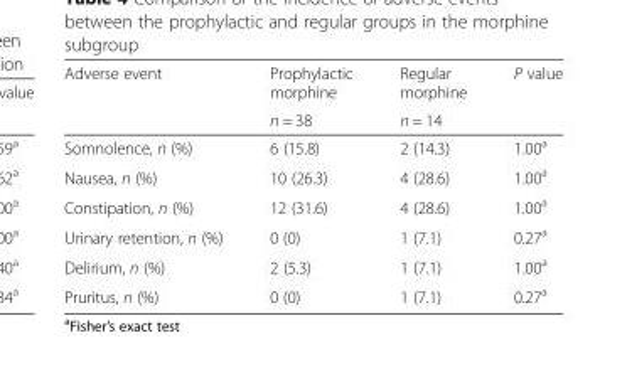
<table><thead><tr><td rowspan="2">Adverse event</td><td rowspan="2">Prophylactic morphine n = 38</td><td rowspan="2">Regular morphine n = 14</td><td rowspan="2">P value</td></tr><tr></tr></thead><tbody><tr><td>Somnolence, n (%)</td><td>6 (15.8)</td><td>2 (14.3)</td><td>1.00<sup>a</sup></td></tr><tr><td>Nausea, n (%)</td><td>10 (26.3)</td><td>4 (28.6)</td><td>1.00<sup>a</sup></td></tr><tr><td>Constipation, n (%)</td><td>12 (31.6)</td><td>4 (28.6)</td><td>1.00<sup>a</sup></td></tr><tr><td>Urinary retention, n (%)</td><td>0 (0)</td><td>1 (7.1)</td><td>0.27<sup>a</sup></td></tr><tr><td>Delirium, n (%)</td><td>2 (5.3)</td><td>1 (7.1)</td><td>1.00<sup>a</sup></td></tr><tr><td>Pruritus, n (%)</td><td>0 (0)</td><td>1 (7.1)</td><td>0.27<sup>a</sup></td></tr></tbody></table>